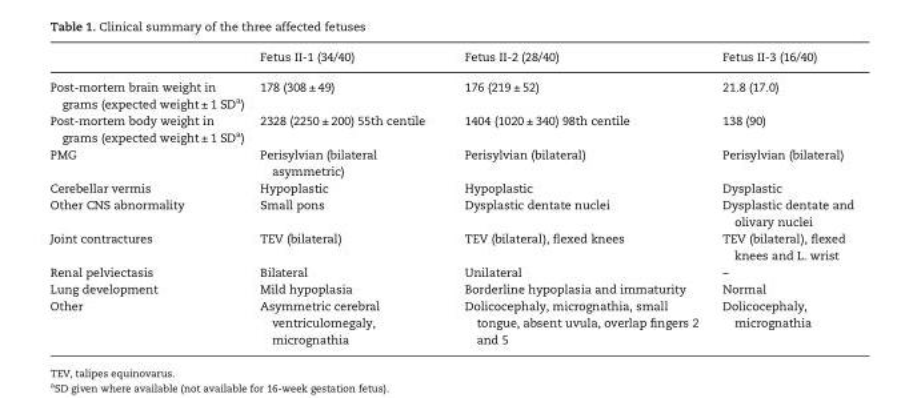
<table><thead><tr><td></td><td>Fetus II-1 (34/40)</td><td>Fetus II-2 (28/40)</td><td>Fetus II-3 (16/40)</td></tr></thead><tbody><tr><td>Post-mortem brain weight in grams (expected weight ± 1 SD<sup>a</sup>)</td><td>178 (308 ± 49)</td><td>176 (219 ± 52)</td><td>21.8 (17.0)</td></tr><tr><td>Post-mortem body weight in grams (expected weight ± 1 SD<sup>a</sup>)</td><td>2328 (2250 ± 200) 55th centile</td><td>1404 (1020 ± 340) 98th centile</td><td>138 (90)</td></tr><tr><td>PMG</td><td>Perisylvian (bilateral asymmetric)</td><td>Perisylvian (bilateral)</td><td>Perisylvian (bilateral)</td></tr><tr><td>Cerebellar vermis</td><td>Hypoplastic</td><td>Hypoplastic</td><td>Dysplastic</td></tr><tr><td>Other CNS abnormality</td><td>Small pons</td><td>Dysplastic dentate nuclei</td><td>Dysplastic dentate and olivary nuclei</td></tr><tr><td>Joint contractures</td><td>TEV (bilateral)</td><td>TEV (bilateral), flexed knees</td><td>TEV (bilateral), flexed knees and L. wrist</td></tr><tr><td>Renal pelviectasis</td><td>Bilateral</td><td>Unilateral</td><td>–</td></tr><tr><td>Lung development</td><td>Mild hypoplasia</td><td>Borderline hypoplasia and immaturity</td><td>Normal</td></tr><tr><td>Other</td><td>Asymmetric cerebral ventriculomegaly, micrognathia</td><td>Dolicocephaly, micrognathia, small tongue, absent uvula, overlap fingers 2 and 5</td><td>Dolicocephaly, micrognathia</td></tr></tbody></table>